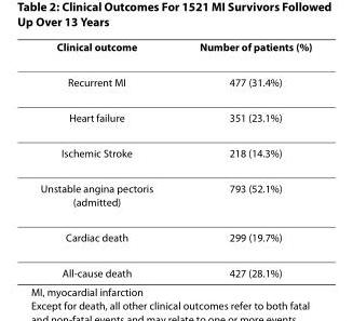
<table><thead><tr><td>Clinical outcome</td><td>Number of patients (%)</td></tr></thead><tbody><tr><td>Recurrent MI</td><td>477 (31.4%)</td></tr><tr><td>Heart failure</td><td>351 (23.1%)</td></tr><tr><td>Ischemic Stroke</td><td>218 (14.3%)</td></tr><tr><td>Unstable angina pectoris (admitted)</td><td>793 (52.1%)</td></tr><tr><td>Cardiac death</td><td>299 (19.7%)</td></tr><tr><td>All-cause death</td><td>427 (28.1%)</td></tr></tbody></table>